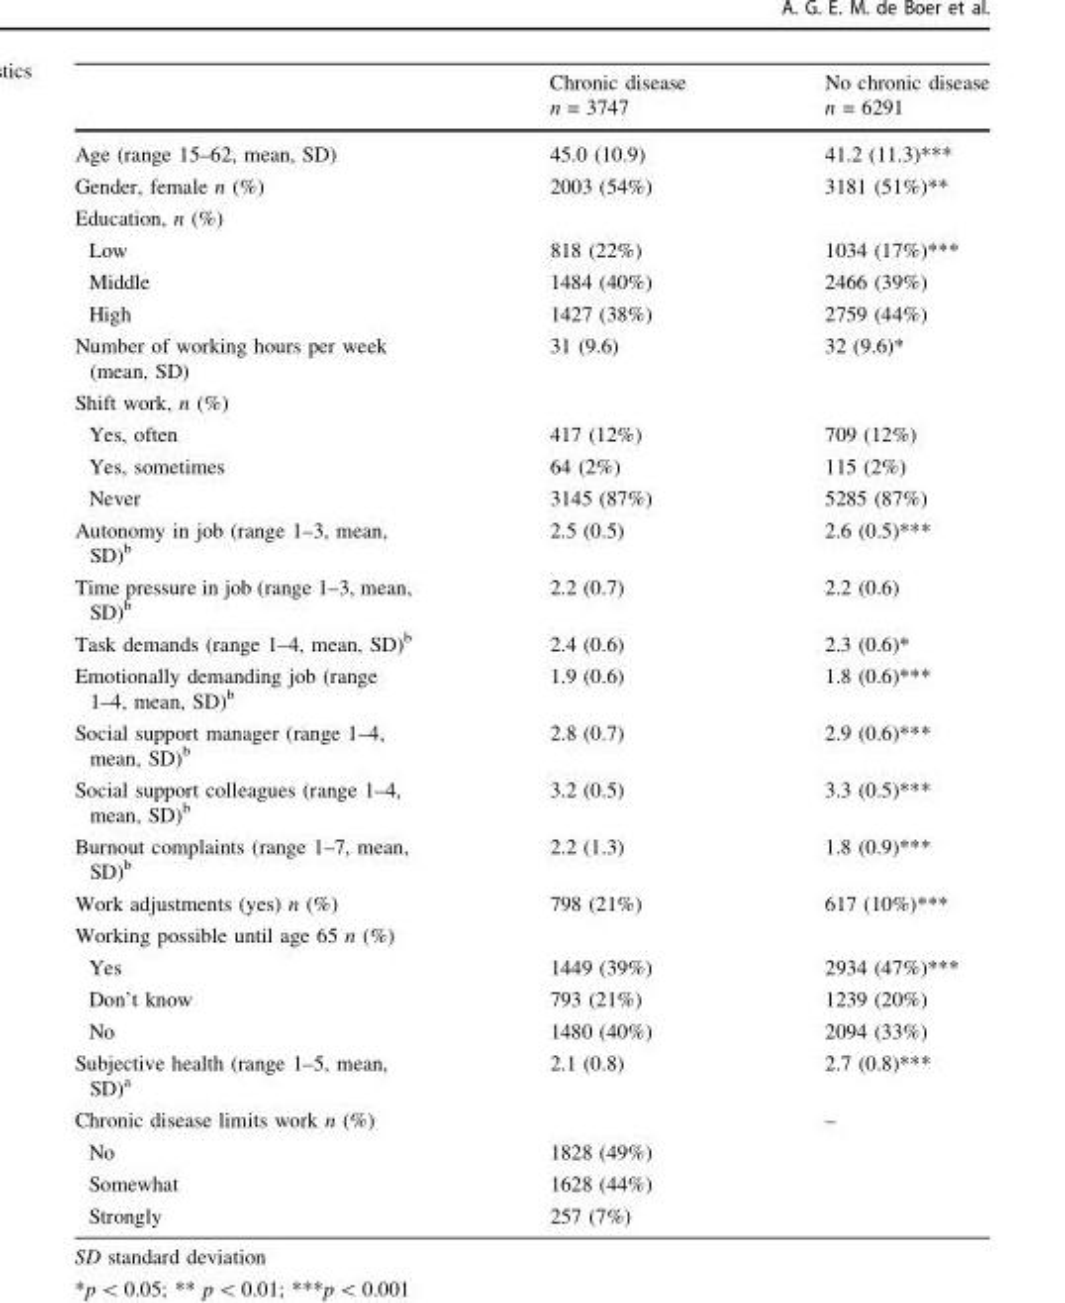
<table><thead><tr><td></td><td>Chronic disease n = 3747</td><td>No chronic disease n = 6291</td></tr></thead><tbody><tr><td>Age (range 15–62, mean, SD)</td><td>45.0 (10.9)</td><td>41.2 (11.3)***</td></tr><tr><td>Gender, female n (%)</td><td>2003 (54%)</td><td>3181 (51%)**</td></tr><tr><td colspan="3">Education, n (%)</td></tr><tr><td>Low</td><td>818 (22%)</td><td>1034 (17%)***</td></tr><tr><td>Middle</td><td>1484 (40%)</td><td>2466 (39%)</td></tr><tr><td>High</td><td>1427 (38%)</td><td>2759 (44%)</td></tr><tr><td>Number of working hours per week (mean, SD)</td><td>31 (9.6)</td><td>32 (9.6)*</td></tr><tr><td colspan="3">Shift work, n (%)</td></tr><tr><td>Yes, often</td><td>417 (12%)</td><td>709 (12%)</td></tr><tr><td>Yes, sometimes</td><td>64 (2%)</td><td>115 (2%)</td></tr><tr><td>Never</td><td>3145 (87%)</td><td>5285 (87%)</td></tr><tr><td>Autonomy in job (range 1–3, mean, SD)<sup>b</sup></td><td>2.5 (0.5)</td><td>2.6 (0.5)***</td></tr><tr><td>Time pressure in job (range 1–3, mean, SD)<sup>b</sup></td><td>2.2 (0.7)</td><td>2.2 (0.6)</td></tr><tr><td>Task demands (range 1–4, mean, SD)<sup>b</sup></td><td>2.4 (0.6)</td><td>2.3 (0.6)*</td></tr><tr><td>Emotionally demanding job (range 1–4, mean, SD)<sup>b</sup></td><td>1.9 (0.6)</td><td>1.8 (0.6)***</td></tr><tr><td>Social support manager (range 1–4, mean, SD)<sup>b</sup></td><td>2.8 (0.7)</td><td>2.9 (0.6)***</td></tr><tr><td>Social support colleagues (range 1–4, mean, SD)<sup>b</sup></td><td>3.2 (0.5)</td><td>3.3 (0.5)***</td></tr><tr><td>Burnout complaints (range 1–7, mean, SD)<sup>b</sup></td><td>2.2 (1.3)</td><td>1.8 (0.9)***</td></tr><tr><td>Work adjustments (yes) n (%)</td><td>798 (21%)</td><td>617 (10%)***</td></tr><tr><td colspan="3">Working possible until age 65 n (%)</td></tr><tr><td>Yes</td><td>1449 (39%)</td><td>2934 (47%)***</td></tr><tr><td>Don’t know</td><td>793 (21%)</td><td>1239 (20%)</td></tr><tr><td>No</td><td>1480 (40%)</td><td>2094 (33%)</td></tr><tr><td>Subjective health (range 1–5, mean, SD)<sup>a</sup></td><td>2.1 (0.8)</td><td>2.7 (0.8)***</td></tr><tr><td>Chronic disease limits work n (%)</td><td></td><td>–</td></tr><tr><td>No</td><td>1828 (49%)</td><td></td></tr><tr><td>Somewhat</td><td>1628 (44%)</td><td></td></tr><tr><td>Strongly</td><td>257 (7%)</td><td></td></tr></tbody></table>